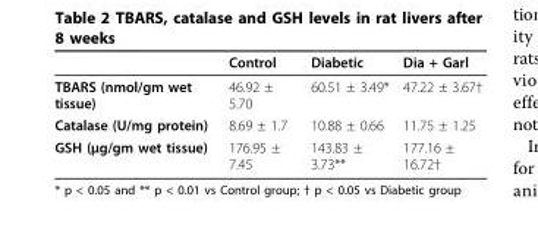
<table><thead><tr><td></td><td>Control</td><td>Diabetic</td><td>Dia + Garl</td></tr></thead><tbody><tr><td>TBARS (nmol/gm wet tissue)</td><td>46.92 ± 5.70</td><td>60.51 ± 3.49*</td><td>47.22 ± 3.67†</td></tr><tr><td>Catalase (U/mg protein)</td><td>8.69 ± 1.7</td><td>10.88 ± 0.66</td><td>11.75 ± 1.25</td></tr><tr><td>GSH (µg/gm wet tissue)</td><td>176.95 ± 7.45</td><td>143.83 ± 3.73**</td><td>177.16 ± 16.72†</td></tr></tbody></table>